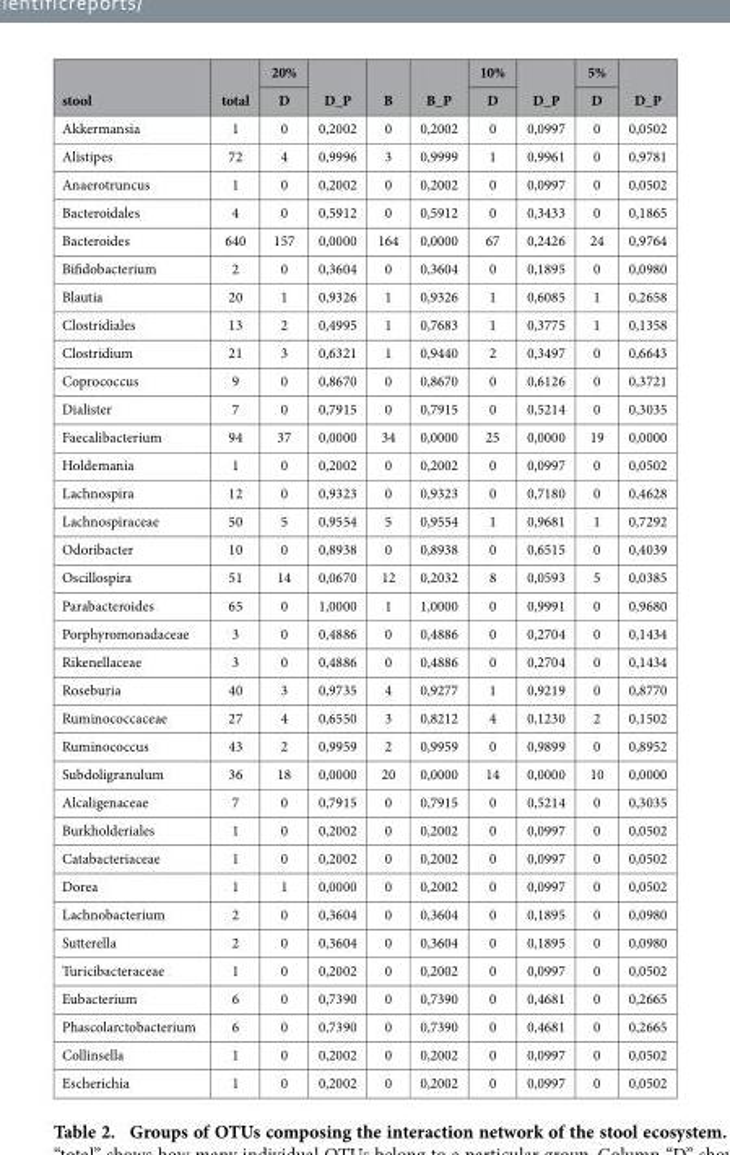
<table><thead><tr><td rowspan="2">stool</td><td rowspan="2">total</td><td rowspan="2">20% D</td><td rowspan="2">D_P</td><td rowspan="2">B</td><td rowspan="2">B_P</td><td rowspan="2">10% D</td><td rowspan="2">D_P</td><td rowspan="2">5% D</td><td rowspan="2">D_P</td></tr><tr></tr></thead><tbody><tr><td>Akkermansia</td><td>1</td><td>0</td><td>0,2002</td><td>0</td><td>0,2002</td><td>0</td><td>0,0997</td><td>0</td><td>0,0502</td></tr><tr><td>Alistipes</td><td>72</td><td>4</td><td>0,9996</td><td>3</td><td>0,9999</td><td>1</td><td>0,9961</td><td>0</td><td>0,9781</td></tr><tr><td>Anaerotruncus</td><td>1</td><td>0</td><td>0,2002</td><td>0</td><td>0,2002</td><td>0</td><td>0,0997</td><td>0</td><td>0,0502</td></tr><tr><td>Bacteroidales</td><td>4</td><td>0</td><td>0,5912</td><td>0</td><td>0,5912</td><td>0</td><td>0,3433</td><td>0</td><td>0,1865</td></tr><tr><td>Bacteroides</td><td>640</td><td>157</td><td>0,0000</td><td>164</td><td>0,0000</td><td>67</td><td>0,2426</td><td>24</td><td>0,9764</td></tr><tr><td>Bifidobacterium</td><td>2</td><td>0</td><td>0,3604</td><td>0</td><td>0,3604</td><td>0</td><td>0,1895</td><td>0</td><td>0,0980</td></tr><tr><td>Blautia</td><td>20</td><td>1</td><td>0,9326</td><td>1</td><td>0,9326</td><td>1</td><td>0,6085</td><td>1</td><td>0,2658</td></tr><tr><td>Clostridiales</td><td>13</td><td>2</td><td>0,4995</td><td>1</td><td>0,7683</td><td>1</td><td>0,3775</td><td>1</td><td>0,1358</td></tr><tr><td>Clostridium</td><td>21</td><td>3</td><td>0,6321</td><td>1</td><td>0,9440</td><td>2</td><td>0,3497</td><td>0</td><td>0,6643</td></tr><tr><td>Coprococcus</td><td>9</td><td>0</td><td>0,8670</td><td>0</td><td>0,8670</td><td>0</td><td>0,6126</td><td>0</td><td>0,3721</td></tr><tr><td>Dialister</td><td>7</td><td>0</td><td>0,7915</td><td>0</td><td>0,7915</td><td>0</td><td>0,5214</td><td>0</td><td>0,3035</td></tr><tr><td>Faecalibacterium</td><td>94</td><td>37</td><td>0,0000</td><td>34</td><td>0,0000</td><td>25</td><td>0,0000</td><td>19</td><td>0,0000</td></tr><tr><td>Holdemania</td><td>1</td><td>0</td><td>0,2002</td><td>0</td><td>0,2002</td><td>0</td><td>0,0997</td><td>0</td><td>0,0502</td></tr><tr><td>Lachnospira</td><td>12</td><td>0</td><td>0,9323</td><td>0</td><td>0,9323</td><td>0</td><td>0,7180</td><td>0</td><td>0,4628</td></tr><tr><td>Lachnospiraceae</td><td>50</td><td>5</td><td>0,9554</td><td>5</td><td>0,9554</td><td>1</td><td>0,9681</td><td>1</td><td>0,7292</td></tr><tr><td>Odoribacter</td><td>10</td><td>0</td><td>0,8938</td><td>0</td><td>0,8938</td><td>0</td><td>0,6515</td><td>0</td><td>0,4039</td></tr><tr><td>Oscillospira</td><td>51</td><td>14</td><td>0,0670</td><td>12</td><td>0,2032</td><td>8</td><td>0,0593</td><td>5</td><td>0,0385</td></tr><tr><td>Parabacteroides</td><td>65</td><td>0</td><td>1,0000</td><td>1</td><td>1,0000</td><td>0</td><td>0,9991</td><td>0</td><td>0,9680</td></tr><tr><td>Porphyromonadaceae</td><td>3</td><td>0</td><td>0,4886</td><td>0</td><td>0,4886</td><td>0</td><td>0,2704</td><td>0</td><td>0,1434</td></tr><tr><td>Rikenellaceae</td><td>3</td><td>0</td><td>0,4886</td><td>0</td><td>0,4886</td><td>0</td><td>0,2704</td><td>0</td><td>0,1434</td></tr><tr><td>Roseburia</td><td>40</td><td>3</td><td>0,9735</td><td>4</td><td>0,9277</td><td>1</td><td>0,9219</td><td>0</td><td>0,8770</td></tr><tr><td>Ruminococcaceae</td><td>27</td><td>4</td><td>0,6550</td><td>3</td><td>0,8212</td><td>4</td><td>0,1230</td><td>2</td><td>0,1502</td></tr><tr><td>Ruminococcus</td><td>43</td><td>2</td><td>0,9959</td><td>2</td><td>0,9959</td><td>0</td><td>0,9899</td><td>0</td><td>0,8952</td></tr><tr><td>Subdoligranulum</td><td>36</td><td>18</td><td>0,0000</td><td>20</td><td>0,0000</td><td>14</td><td>0,0000</td><td>10</td><td>0,0000</td></tr><tr><td>Alcaligenaceae</td><td>7</td><td>0</td><td>0,7915</td><td>0</td><td>0,7915</td><td>0</td><td>0,5214</td><td>0</td><td>0,3035</td></tr><tr><td>Burkholderiales</td><td>1</td><td>0</td><td>0,2002</td><td>0</td><td>0,2002</td><td>0</td><td>0,0997</td><td>0</td><td>0,0502</td></tr><tr><td>Catabacteriaceae</td><td>1</td><td>0</td><td>0,2002</td><td>0</td><td>0,2002</td><td>0</td><td>0,0997</td><td>0</td><td>0,0502</td></tr><tr><td>Dorea</td><td>1</td><td>1</td><td>0,0000</td><td>0</td><td>0,2002</td><td>0</td><td>0,0997</td><td>0</td><td>0,0502</td></tr><tr><td>Lachnobacterium</td><td>2</td><td>0</td><td>0,3604</td><td>0</td><td>0,3604</td><td>0</td><td>0,1895</td><td>0</td><td>0,0980</td></tr><tr><td>Sutterella</td><td>2</td><td>0</td><td>0,3604</td><td>0</td><td>0,3604</td><td>0</td><td>0,1895</td><td>0</td><td>0,0980</td></tr><tr><td>Turicibacteraceae</td><td>1</td><td>0</td><td>0,2002</td><td>0</td><td>0,2002</td><td>0</td><td>0,0997</td><td>0</td><td>0,0502</td></tr><tr><td>Eubacterium</td><td>6</td><td>0</td><td>0,7390</td><td>0</td><td>0,7390</td><td>0</td><td>0,4681</td><td>0</td><td>0,2665</td></tr><tr><td>Phascolarctobacterium</td><td>6</td><td>0</td><td>0,7390</td><td>0</td><td>0,7390</td><td>0</td><td>0,4681</td><td>0</td><td>0,2665</td></tr><tr><td>Collinsella</td><td>1</td><td>0</td><td>0,2002</td><td>0</td><td>0,2002</td><td>0</td><td>0,0997</td><td>0</td><td>0,0502</td></tr><tr><td>Escherichia</td><td>1</td><td>0</td><td>0,2002</td><td>0</td><td>0,2002</td><td>0</td><td>0,0997</td><td>0</td><td>0,0502</td></tr></tbody></table>